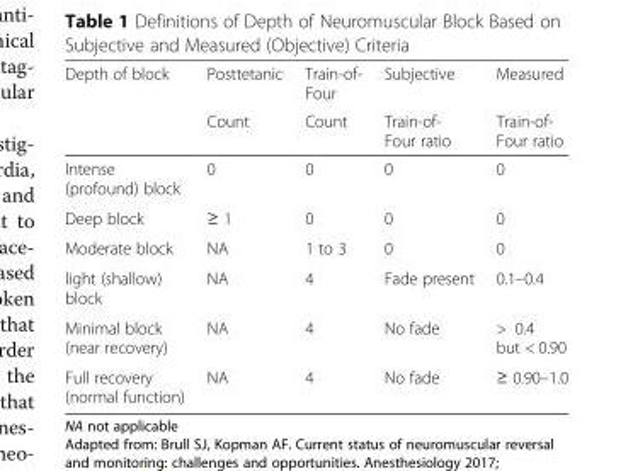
<table><thead><tr><td rowspan="2">Depth of block</td><td rowspan="2">Posttetanic Count</td><td rowspan="2">Train-of- Four Count</td><td rowspan="2">Subjective Train-of- Four ratio</td><td rowspan="2">Measured Train-of- Four ratio</td></tr><tr></tr></thead><tbody><tr><td>Intense (profound) block</td><td>0</td><td>0</td><td>0</td><td>0</td></tr><tr><td>Deep block</td><td>≥ 1</td><td>0</td><td>0</td><td>0</td></tr><tr><td>Moderate block</td><td>NA</td><td>1 to 3</td><td>0</td><td>0</td></tr><tr><td>light (shallow) block</td><td>NA</td><td>4</td><td>Fade present</td><td>0.1–0.4</td></tr><tr><td>Minimal block (near recovery)</td><td>NA</td><td>4</td><td>No fade</td><td>&gt; 0.4 but &lt; 0.90</td></tr><tr><td>Full recovery (normal function)</td><td>NA</td><td>4</td><td>No fade</td><td>≥ 0.90–1.0</td></tr></tbody></table>